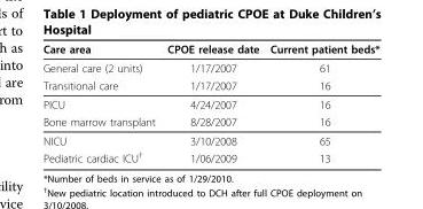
<table><thead><tr><td>Care area</td><td>CPOE release date</td><td>Current patient beds*</td></tr></thead><tbody><tr><td>General care (2 units)</td><td>1/17/2007</td><td>61</td></tr><tr><td>Transitional care</td><td>1/17/2007</td><td>16</td></tr><tr><td>PICU</td><td>4/24/2007</td><td>16</td></tr><tr><td>Bone marrow transplant</td><td>8/28/2007</td><td>16</td></tr><tr><td>NICU</td><td>3/10/2008</td><td>65</td></tr><tr><td>Pediatric cardiac ICU<sup>†</sup></td><td>1/06/2009</td><td>13</td></tr></tbody></table>